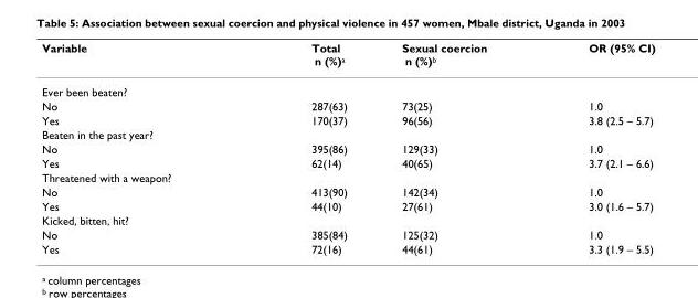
<table><thead><tr><td>Variable</td><td>Total n (%)a</td><td>Sexual coercion n (%)b</td><td>OR (95% CI)</td></tr></thead><tbody><tr><td colspan="4">Ever been beaten?</td></tr><tr><td>No</td><td>287(63)</td><td>73(25)</td><td>1.0</td></tr><tr><td>Yes</td><td>170(37)</td><td>96(56)</td><td>3.8 (2.5 – 5.7)</td></tr><tr><td colspan="4">Beaten in the past year?</td></tr><tr><td>No</td><td>395(86)</td><td>129(33)</td><td>1.0</td></tr><tr><td>Yes</td><td>62(14)</td><td>40(65)</td><td>3.7 (2.1 – 6.6)</td></tr><tr><td colspan="4">Threatened with a weapon?</td></tr><tr><td>No</td><td>413(90)</td><td>142(34)</td><td>1.0</td></tr><tr><td>Yes</td><td>44(10)</td><td>27(61)</td><td>3.0 (1.6 – 5.7)</td></tr><tr><td colspan="4">Kicked, bitten, hit?</td></tr><tr><td>No</td><td>385(84)</td><td>125(32)</td><td>1.0</td></tr><tr><td>Yes</td><td>72(16)</td><td>44(61)</td><td>3.3 (1.9 – 5.5)</td></tr></tbody></table>